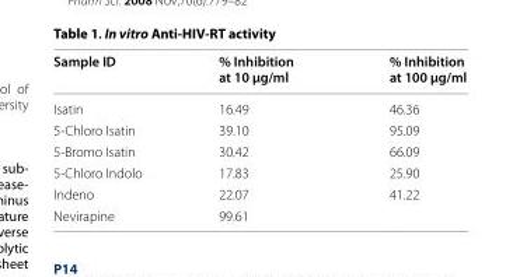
<table><thead><tr><td>Sample ID</td><td>% Inhibition at 10 µg/ml</td><td>% Inhibition at 100 µg/ml</td></tr></thead><tbody><tr><td>Isatin</td><td>16.49</td><td>46.36</td></tr><tr><td>5-Chloro Isatin</td><td>39.10</td><td>95.09</td></tr><tr><td>5-Bromo Isatin</td><td>30.42</td><td>66.09</td></tr><tr><td>5-Chloro Indolo</td><td>17.83</td><td>25.90</td></tr><tr><td>Indeno</td><td>22.07</td><td>41.22</td></tr><tr><td>Nevirapine</td><td>99.61</td><td></td></tr></tbody></table>